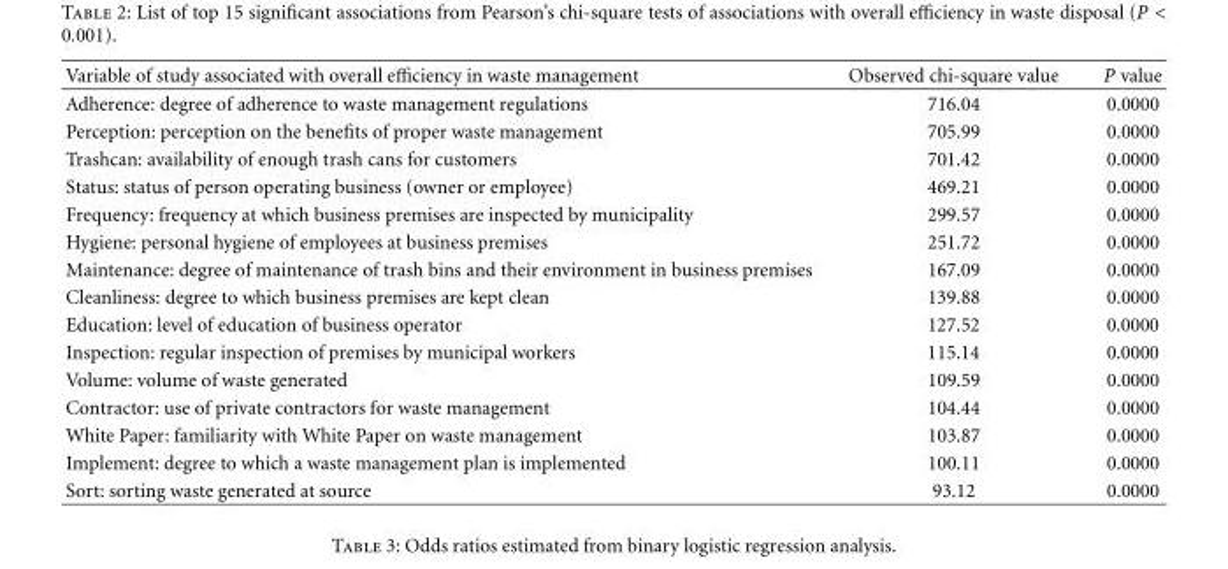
<table><thead><tr><td>Variable of study associated with overall efficiency in waste management</td><td>Observed chi-square value</td><td>P value</td></tr></thead><tbody><tr><td>Adherence: degree of adherence to waste management regulations</td><td>716.04</td><td>0.0000</td></tr><tr><td>Perception: perception on the benefits of proper waste management</td><td>705.99</td><td>0.0000</td></tr><tr><td>Trashcan: availability of enough trash cans for customers</td><td>701.42</td><td>0.0000</td></tr><tr><td>Status: status of person operating business (owner or employee)</td><td>469.21</td><td>0.0000</td></tr><tr><td>Frequency: frequency at which business premises are inspected by municipality</td><td>299.57</td><td>0.0000</td></tr><tr><td>Hygiene: personal hygiene of employees at business premises</td><td>251.72</td><td>0.0000</td></tr><tr><td>Maintenance: degree of maintenance of trash bins and their environment in business premises</td><td>167.09</td><td>0.0000</td></tr><tr><td>Cleanliness: degree to which business premises are kept clean</td><td>139.88</td><td>0.0000</td></tr><tr><td>Education: level of education of business operator</td><td>127.52</td><td>0.0000</td></tr><tr><td>Inspection: regular inspection of premises by municipal workers</td><td>115.14</td><td>0.0000</td></tr><tr><td>Volume: volume of waste generated</td><td>109.59</td><td>0.0000</td></tr><tr><td>Contractor: use of private contractors for waste management</td><td>104.44</td><td>0.0000</td></tr><tr><td>White Paper: familiarity with White Paper on waste management</td><td>103.87</td><td>0.0000</td></tr><tr><td>Implement: degree to which a waste management plan is implemented</td><td>100.11</td><td>0.0000</td></tr><tr><td>Sort: sorting waste generated at source</td><td>93.12</td><td>0.0000</td></tr></tbody></table>